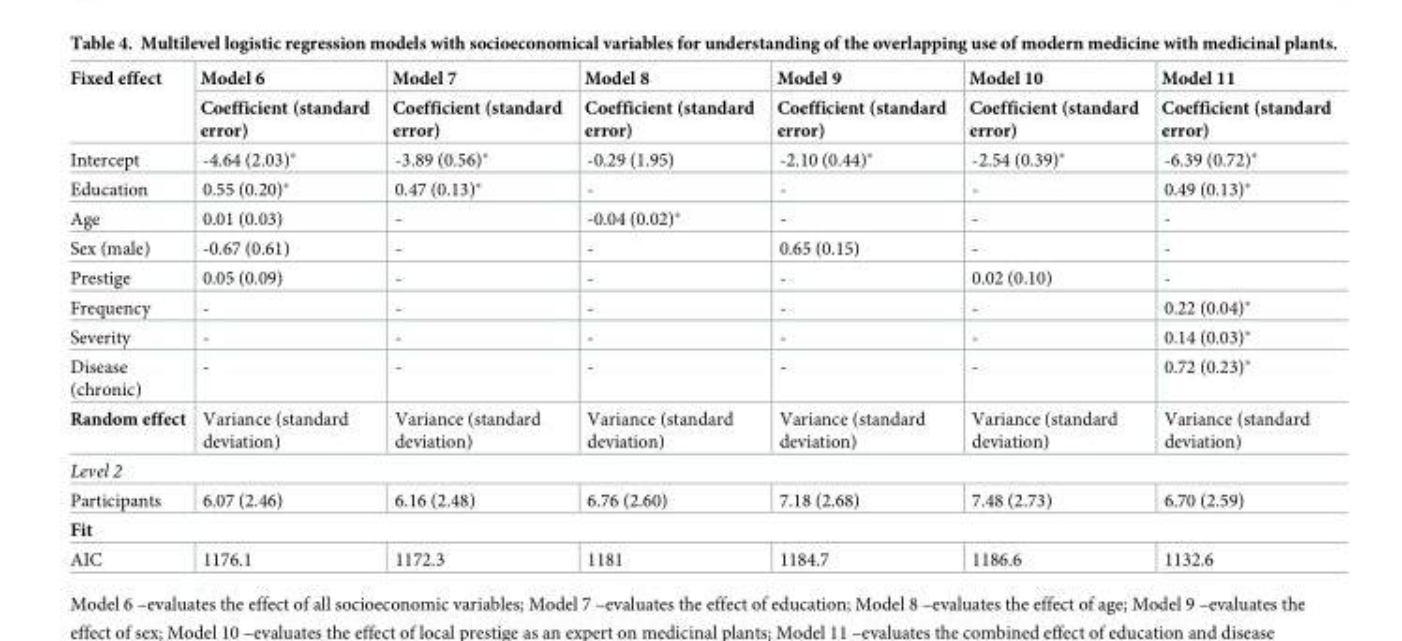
<table><thead><tr><td rowspan="2">Fixed effect</td><td rowspan="2">Model 6 Coefficient (standard error)</td><td rowspan="2">Model 7 Coefficient (standard error)</td><td rowspan="2">Model 8 Coefficient (standard error)</td><td rowspan="2">Model 9 Coefficient (standard error)</td><td rowspan="2">Model 10 Coefficient (standard error)</td><td rowspan="2">Model 11 Coefficient (standard error)</td></tr><tr></tr></thead><tbody><tr><td>Intercept</td><td>-4.64 (2.03)*</td><td>-3.89 (0.56)*</td><td>-0.29 (1.95)</td><td>-2.10 (0.44)*</td><td>-2.54 (0.39)*</td><td>-6.39 (0.72)*</td></tr><tr><td>Education</td><td>0.55 (0.20)*</td><td>0.47 (0.13)*</td><td>-</td><td>-</td><td>-</td><td>0.49 (0.13)*</td></tr><tr><td>Age</td><td>0.01 (0.03)</td><td>-</td><td>-0.04 (0.02)*</td><td>-</td><td>-</td><td>-</td></tr><tr><td>Sex (male)</td><td>-0.67 (0.61)</td><td>-</td><td>-</td><td>0.65 (0.15)</td><td>-</td><td>-</td></tr><tr><td>Prestige</td><td>0.05 (0.09)</td><td>-</td><td>-</td><td>-</td><td>0.02 (0.10)</td><td>-</td></tr><tr><td>Frequency</td><td>-</td><td>-</td><td>-</td><td>-</td><td>-</td><td>0.22 (0.04)*</td></tr><tr><td>Severity</td><td>-</td><td>-</td><td>-</td><td>-</td><td>-</td><td>0.14 (0.03)*</td></tr><tr><td>Disease (chronic)</td><td>-</td><td>-</td><td>-</td><td>-</td><td>-</td><td>0.72 (0.23)*</td></tr><tr><td>Random effect</td><td>Variance (standard deviation)</td><td>Variance (standard deviation)</td><td>Variance (standard deviation)</td><td>Variance (standard deviation)</td><td>Variance (standard deviation)</td><td>Variance (standard deviation)</td></tr><tr><td colspan="7">Level 2</td></tr><tr><td>Participants</td><td>6.07 (2.46)</td><td>6.16 (2.48)</td><td>6.76 (2.60)</td><td>7.18 (2.68)</td><td>7.48 (2.73)</td><td>6.70 (2.59)</td></tr><tr><td colspan="7">Fit</td></tr><tr><td>AIC</td><td>1176.1</td><td>1172.3</td><td>1181</td><td>1184.7</td><td>1186.6</td><td>1132.6</td></tr></tbody></table>